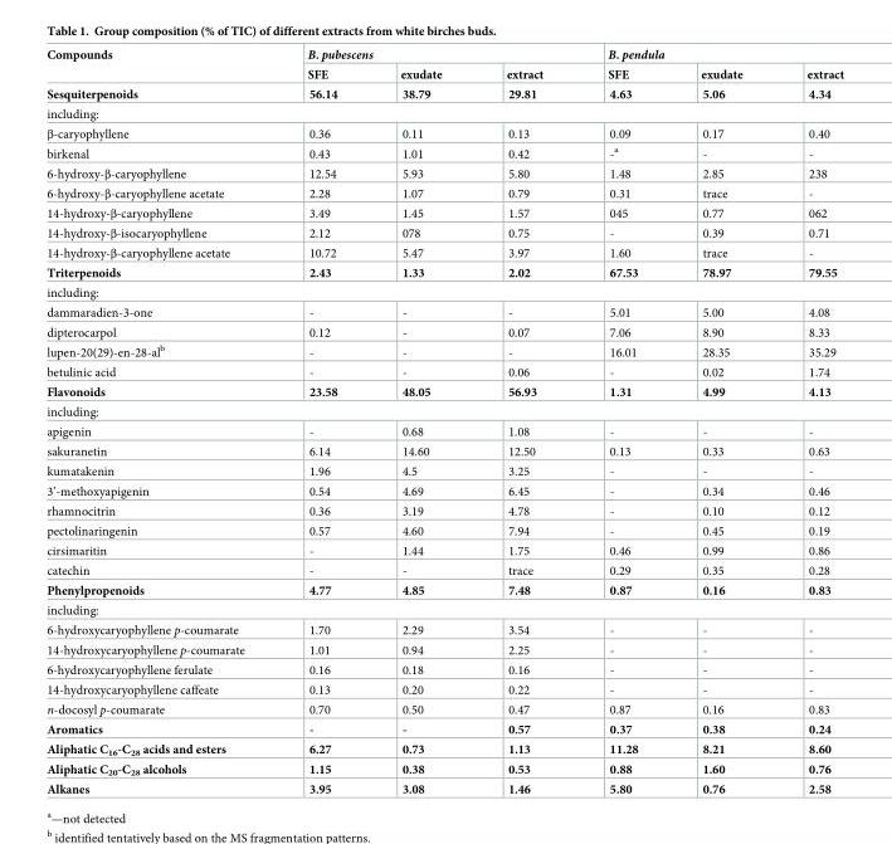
<table><thead><tr><td rowspan="2">Compounds</td><td colspan="3">B. pubescens</td><td colspan="3">B. pendula</td></tr><tr><td>SFE</td><td>exudate</td><td>extract</td><td>SFE</td><td>exudate</td><td>extract</td></tr></thead><tbody><tr><td>Sesquiterpenoids</td><td>56.14</td><td>38.79</td><td>29.81</td><td>4.63</td><td>5.06</td><td>4.34</td></tr><tr><td colspan="7">including:</td></tr><tr><td>β-caryophyllene</td><td>0.36</td><td>0.11</td><td>0.13</td><td>0.09</td><td>0.17</td><td>0.40</td></tr><tr><td>birkenal</td><td>0.43</td><td>1.01</td><td>0.42</td><td>-<sup>a</sup></td><td>-</td><td>-</td></tr><tr><td>6-hydroxy-β-caryophyllene</td><td>12.54</td><td>5.93</td><td>5.80</td><td>1.48</td><td>2.85</td><td>238</td></tr><tr><td>6-hydroxy-β-caryophyllene acetate</td><td>2.28</td><td>1.07</td><td>0.79</td><td>0.31</td><td>trace</td><td>-</td></tr><tr><td>14-hydroxy-β-caryophyllene</td><td>3.49</td><td>1.45</td><td>1.57</td><td>045</td><td>0.77</td><td>062</td></tr><tr><td>14-hydroxy-β-isocaryophyllene</td><td>2.12</td><td>078</td><td>0.75</td><td>-</td><td>0.39</td><td>0.71</td></tr><tr><td>14-hydroxy-β-caryophyllene acetate</td><td>10.72</td><td>5.47</td><td>3.97</td><td>1.60</td><td>trace</td><td>-</td></tr><tr><td>Triterpenoids</td><td>2.43</td><td>1.33</td><td>2.02</td><td>67.53</td><td>78.97</td><td>79.55</td></tr><tr><td colspan="7">including:</td></tr><tr><td>dammaradien-3-one</td><td>-</td><td>-</td><td>-</td><td>5.01</td><td>5.00</td><td>4.08</td></tr><tr><td>dipterocarpol</td><td>0.12</td><td>-</td><td>0.07</td><td>7.06</td><td>8.90</td><td>8.33</td></tr><tr><td>lupen-20(29)-en-28-al<sup>b</sup></td><td>-</td><td>-</td><td>-</td><td>16.01</td><td>28.35</td><td>35.29</td></tr><tr><td>betulinic acid</td><td>-</td><td>-</td><td>0.06</td><td>-</td><td>0.02</td><td>1.74</td></tr><tr><td>Flavonoids</td><td>23.58</td><td>48.05</td><td>56.93</td><td>1.31</td><td>4.99</td><td>4.13</td></tr><tr><td colspan="7">including:</td></tr><tr><td>apigenin</td><td>-</td><td>0.68</td><td>1.08</td><td>-</td><td>-</td><td>-</td></tr><tr><td>sakuranetin</td><td>6.14</td><td>14.60</td><td>12.50</td><td>0.13</td><td>0.33</td><td>0.63</td></tr><tr><td>kumatakenin</td><td>1.96</td><td>4.5</td><td>3.25</td><td>-</td><td>-</td><td>-</td></tr><tr><td>3’-methoxyapigenin</td><td>0.54</td><td>4.69</td><td>6.45</td><td>-</td><td>0.34</td><td>0.46</td></tr><tr><td>rhamnocitrin</td><td>0.36</td><td>3.19</td><td>4.78</td><td>-</td><td>0.10</td><td>0.12</td></tr><tr><td>pectolinaringenin</td><td>0.57</td><td>4.60</td><td>7.94</td><td>-</td><td>0.45</td><td>0.19</td></tr><tr><td>cirsimaritin</td><td>-</td><td>1.44</td><td>1.75</td><td>0.46</td><td>0.99</td><td>0.86</td></tr><tr><td>catechin</td><td>-</td><td>-</td><td>trace</td><td>0.29</td><td>0.35</td><td>0.28</td></tr><tr><td>Phenylpropenoids</td><td>4.77</td><td>4.85</td><td>7.48</td><td>0.87</td><td>0.16</td><td>0.83</td></tr><tr><td colspan="7">including:</td></tr><tr><td>6-hydroxycaryophyllene p-coumarate</td><td>1.70</td><td>2.29</td><td>3.54</td><td>-</td><td>-</td><td>-</td></tr><tr><td>14-hydroxycaryophyllene p-coumarate</td><td>1.01</td><td>0.94</td><td>2.25</td><td>-</td><td>-</td><td>-</td></tr><tr><td>6-hydroxycaryophyllene ferulate</td><td>0.16</td><td>0.18</td><td>0.16</td><td>-</td><td>-</td><td>-</td></tr><tr><td>14-hydroxycaryophyllene caffeate</td><td>0.13</td><td>0.20</td><td>0.22</td><td>-</td><td>-</td><td>-</td></tr><tr><td>n-docosyl p-coumarate</td><td>0.70</td><td>0.50</td><td>0.47</td><td>0.87</td><td>0.16</td><td>0.83</td></tr><tr><td>Aromatics</td><td>-</td><td>-</td><td>0.57</td><td>0.37</td><td>0.38</td><td>0.24</td></tr><tr><td>Aliphatic C<sub>16</sub>-C<sub>28</sub> acids and esters</td><td>6.27</td><td>0.73</td><td>1.13</td><td>11.28</td><td>8.21</td><td>8.60</td></tr><tr><td>Aliphatic C<sub>20</sub>-C<sub>28</sub> alcohols</td><td>1.15</td><td>0.38</td><td>0.53</td><td>0.88</td><td>1.60</td><td>0.76</td></tr><tr><td>Alkanes</td><td>3.95</td><td>3.08</td><td>1.46</td><td>5.80</td><td>0.76</td><td>2.58</td></tr></tbody></table>